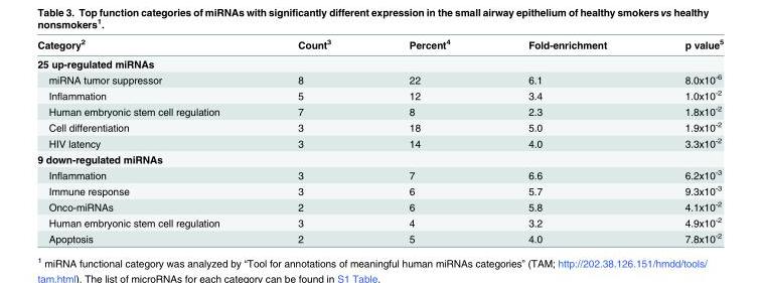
<table><thead><tr><td>Category<sup>2</sup></td><td>Count<sup>3</sup></td><td>Percent<sup>4</sup></td><td>Fold-enrichment</td><td>p value<sup>5</sup></td></tr></thead><tbody><tr><td colspan="5">25 up-regulated miRNAs</td></tr><tr><td>miRNA tumor suppressor</td><td>8</td><td>22</td><td>6.1</td><td>8.0x10<sup>-6</sup></td></tr><tr><td>Inflammation</td><td>5</td><td>12</td><td>3.4</td><td>1.0x10<sup>-2</sup></td></tr><tr><td>Human embryonic stem cell regulation</td><td>7</td><td>8</td><td>2.3</td><td>1.8x10<sup>-2</sup></td></tr><tr><td>Cell differentiation</td><td>3</td><td>18</td><td>5.0</td><td>1.9x10<sup>-2</sup></td></tr><tr><td>HIV latency</td><td>3</td><td>14</td><td>4.0</td><td>3.3x10<sup>-2</sup></td></tr><tr><td colspan="5">9 down-regulated miRNAs</td></tr><tr><td>Inflammation</td><td>3</td><td>7</td><td>6.6</td><td>6.2x10<sup>-3</sup></td></tr><tr><td>Immune response</td><td>3</td><td>6</td><td>5.7</td><td>9.3x10<sup>-3</sup></td></tr><tr><td>Onco-miRNAs</td><td>2</td><td>6</td><td>5.8</td><td>4.1x10<sup>-2</sup></td></tr><tr><td>Human embryonic stem cell regulation</td><td>3</td><td>4</td><td>3.2</td><td>4.9x10<sup>-2</sup></td></tr><tr><td>Apoptosis</td><td>2</td><td>5</td><td>4.0</td><td>7.8x10<sup>-2</sup></td></tr></tbody></table>